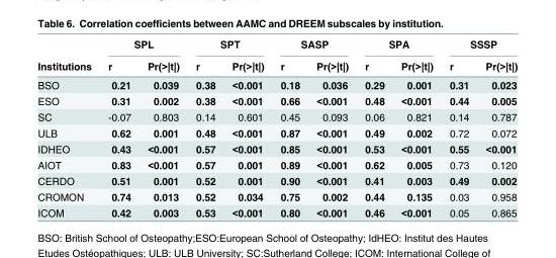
<table><thead><tr><td rowspan="2">Institutions</td><td colspan="2">SPL</td><td colspan="2">SPT</td><td colspan="2">SASP</td><td colspan="2">SPA</td><td colspan="2">SSSP</td></tr><tr><td>r</td><td>Pr(&gt;|t|)</td><td>r</td><td>Pr(&gt;|t|)</td><td>r</td><td>Pr(&gt;|t|)</td><td>r</td><td>Pr(&gt;|t|)</td><td>r</td><td>Pr(&gt;|t|)</td></tr></thead><tbody><tr><td>BSO</td><td>0.21</td><td>0.039</td><td>0.38</td><td>&lt;0.001</td><td>0.18</td><td>0.036</td><td>0.29</td><td>0.001</td><td>0.31</td><td>0.023</td></tr><tr><td>ESO</td><td>0.31</td><td>0.002</td><td>0.38</td><td>&lt;0.001</td><td>0.66</td><td>&lt;0.001</td><td>0.48</td><td>&lt;0.001</td><td>0.44</td><td>0.005</td></tr><tr><td>SC</td><td>-0.07</td><td>0.803</td><td>0.14</td><td>0.601</td><td>0.45</td><td>0.093</td><td>0.06</td><td>0.821</td><td>0.14</td><td>0.787</td></tr><tr><td>ULB</td><td>0.62</td><td>0.001</td><td>0.48</td><td>&lt;0.001</td><td>0.87</td><td>&lt;0.001</td><td>0.49</td><td>0.002</td><td>0.72</td><td>0.072</td></tr><tr><td>IDHEO</td><td>0.43</td><td>&lt;0.001</td><td>0.57</td><td>&lt;0.001</td><td>0.85</td><td>&lt;0.001</td><td>0.53</td><td>&lt;0.001</td><td>0.55</td><td>&lt;0.001</td></tr><tr><td>AIOT</td><td>0.83</td><td>&lt;0.001</td><td>0.57</td><td>0.001</td><td>0.89</td><td>&lt;0.001</td><td>0.62</td><td>0.005</td><td>0.73</td><td>0.120</td></tr><tr><td>CERDO</td><td>0.51</td><td>0.001</td><td>0.52</td><td>0.001</td><td>0.90</td><td>&lt;0.001</td><td>0.41</td><td>0.003</td><td>0.49</td><td>0.002</td></tr><tr><td>CROMON</td><td>0.74</td><td>0.013</td><td>0.52</td><td>0.034</td><td>0.75</td><td>0.002</td><td>0.44</td><td>0.135</td><td>0.03</td><td>0.958</td></tr><tr><td>ICOM</td><td>0.42</td><td>0.003</td><td>0.53</td><td>&lt;0.001</td><td>0.80</td><td>&lt;0.001</td><td>0.46</td><td>&lt;0.001</td><td>0.05</td><td>0.865</td></tr></tbody></table>